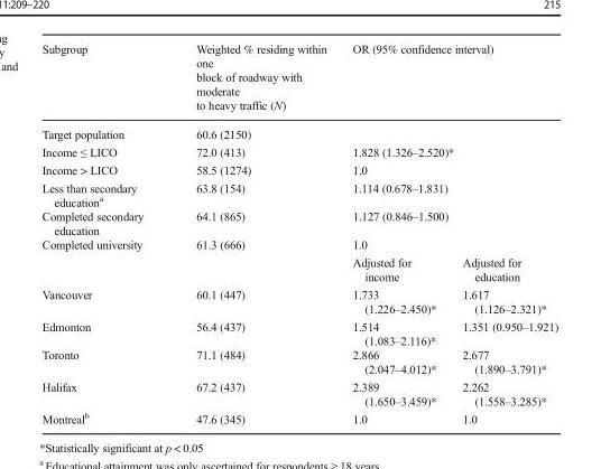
<table><thead><tr><td>Subgroup</td><td>Weighted % residing within one block of roadway with moderate to heavy traffic (N)</td><td colspan="2">OR (95% confidence interval)</td></tr></thead><tbody><tr><td>Target population</td><td>60.6 (2150)</td><td colspan="2"></td></tr><tr><td>Income ≤ LICO</td><td>72.0 (413)</td><td colspan="2">1.828 (1.326–2.520)*</td></tr><tr><td>Income &gt; LICO</td><td>58.5 (1274)</td><td colspan="2">1.0</td></tr><tr><td>Less than secondary education<sup>a</sup></td><td>63.8 (154)</td><td colspan="2">1.114 (0.678–1.831)</td></tr><tr><td>Completed secondary education</td><td>64.1 (865)</td><td colspan="2">1.127 (0.846–1.500)</td></tr><tr><td rowspan="2">Completed university</td><td>61.3 (666)</td><td colspan="2">1.0</td></tr><tr><td></td><td>Adjusted for income</td><td>Adjusted for education</td></tr><tr><td>Vancouver</td><td>60.1 (447)</td><td>1.733 (1.226–2.450)*</td><td>1.617 (1.126–2.321)*</td></tr><tr><td>Edmonton</td><td>56.4 (437)</td><td>1.514 (1.083–2.116)*</td><td>1.351 (0.950–1.921)</td></tr><tr><td>Toronto</td><td>71.1 (484)</td><td>2.866 (2.047–4.012)*</td><td>2.677 (1.890–3.791)*</td></tr><tr><td>Halifax</td><td>67.2 (437)</td><td>2.389 (1.650–3.459)*</td><td>2.262 (1.558–3.285)*</td></tr><tr><td>Montreal<sup>b</sup></td><td>47.6 (345)</td><td>1.0</td><td>1.0</td></tr></tbody></table>